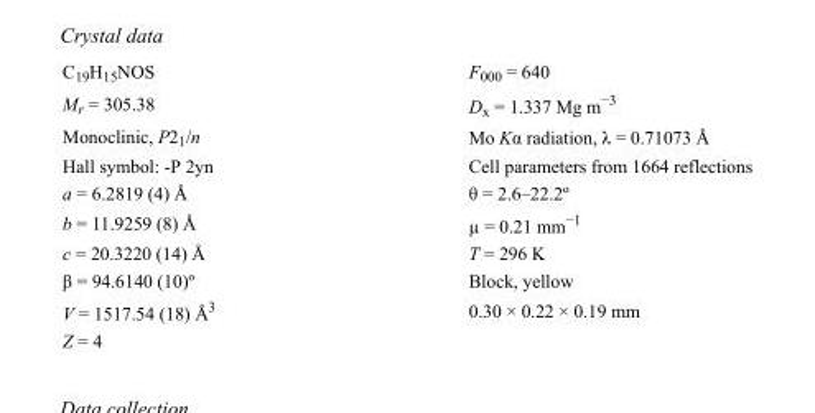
<table><tbody><tr><td>C<sub>19</sub>H<sub>15</sub>NOS</td><td>F000 = 640</td></tr><tr><td>M<sub>r</sub> = 305.38</td><td>D<sub>x</sub> = 1.337 Mg m<sup>−3</sup></td></tr><tr><td>Monoclinic, P2<sub>1</sub>/n</td><td>Mo Kα radiation, λ = 0.71073 Å</td></tr><tr><td>Hall symbol: -P 2yn</td><td>Cell parameters from 1664 reflections</td></tr><tr><td>a = 6.2819 (4) Å</td><td>θ = 2.6–22.2º</td></tr><tr><td>b = 11.9259 (8) Å</td><td>µ = 0.21 mm<sup>−1</sup></td></tr><tr><td>c = 20.3220 (14) Å</td><td>T = 296 K</td></tr><tr><td>β = 94.6140 (10)º</td><td>Block, yellow</td></tr><tr><td>V = 1517.54 (18) Å<sup>3</sup></td><td>0.30 × 0.22 × 0.19 mm</td></tr><tr><td>Z = 4</td><td></td></tr></tbody></table>